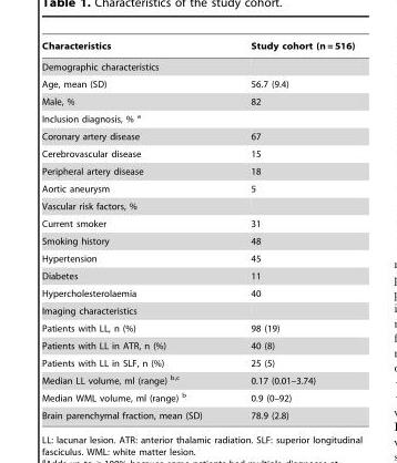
<table><thead><tr><td>Characteristics</td><td>Study cohort (n = 516)</td></tr></thead><tbody><tr><td colspan="2">Demographic characteristics</td></tr><tr><td>Age, mean (SD)</td><td>56.7 (9.4)</td></tr><tr><td>Male, %</td><td>82</td></tr><tr><td colspan="2">Inclusion diagnosis, % a</td></tr><tr><td>Coronary artery disease</td><td>67</td></tr><tr><td>Cerebrovascular disease</td><td>15</td></tr><tr><td>Peripheral artery disease</td><td>18</td></tr><tr><td>Aortic aneurysm</td><td>5</td></tr><tr><td colspan="2">Vascular risk factors, %</td></tr><tr><td>Current smoker</td><td>31</td></tr><tr><td>Smoking history</td><td>48</td></tr><tr><td>Hypertension</td><td>45</td></tr><tr><td>Diabetes</td><td>11</td></tr><tr><td>Hypercholesterolaemia</td><td>40</td></tr><tr><td colspan="2">Imaging characteristics</td></tr><tr><td>Patients with LL, n (%)</td><td>98 (19)</td></tr><tr><td>Patients with LL in ATR, n (%)</td><td>40 (8)</td></tr><tr><td>Patients with LL in SLF, n (%)</td><td>25 (5)</td></tr><tr><td>Median LL volume, ml (range) b,c</td><td>0.17 (0.01–3.74)</td></tr><tr><td>Median WML volume, ml (range) b</td><td>0.9 (0–92)</td></tr><tr><td>Brain parenchymal fraction, mean (SD)</td><td>78.9 (2.8)</td></tr></tbody></table>